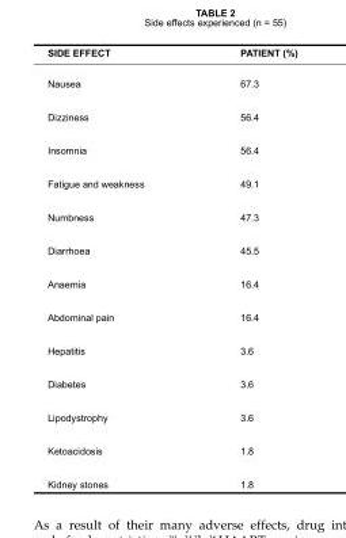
<table><thead><tr><td>sIdE EFFEct</td><td>PatIEnt (%)</td></tr></thead><tbody><tr><td>Nausea</td><td>67.3</td></tr><tr><td>Dizziness</td><td>56.4</td></tr><tr><td>Insomnia</td><td>56.4</td></tr><tr><td>Fatigue and weakness</td><td>49.1</td></tr><tr><td>Numbness</td><td>47.3</td></tr><tr><td>Diarrhoea</td><td>45.5</td></tr><tr><td>Anaemia</td><td>16.4</td></tr><tr><td>Abdominal pain</td><td>16.4</td></tr><tr><td>Hepatitis</td><td>3.6</td></tr><tr><td>Diabetes</td><td>3.6</td></tr><tr><td>Lipodystrophy</td><td>3.6</td></tr><tr><td>Ketoacidosis</td><td>1.8</td></tr><tr><td>Kidney stones</td><td>1.8</td></tr></tbody></table>